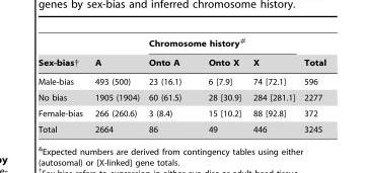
<table><thead><tr><td rowspan="2">Sex-bias†</td><td rowspan="2">A</td><td colspan="3">Chromosome history#</td><td rowspan="2">Total</td></tr><tr><td>Onto A</td><td>Onto X</td><td>X</td></tr></thead><tbody><tr><td>Male-bias</td><td>493 (500)</td><td>23 (16.1)</td><td>6 [7.9]</td><td>74 [72.1]</td><td>596</td></tr><tr><td>No bias</td><td>1905 (1904)</td><td>60 (61.5)</td><td>28 [30.9]</td><td>284 [281.1]</td><td>2277</td></tr><tr><td>Female-bias</td><td>266 (260.6)</td><td>3 (8.4)</td><td>15 [10.2]</td><td>88 [92.8]</td><td>372</td></tr><tr><td>Total</td><td>2664</td><td>86</td><td>49</td><td>446</td><td>3245</td></tr></tbody></table>